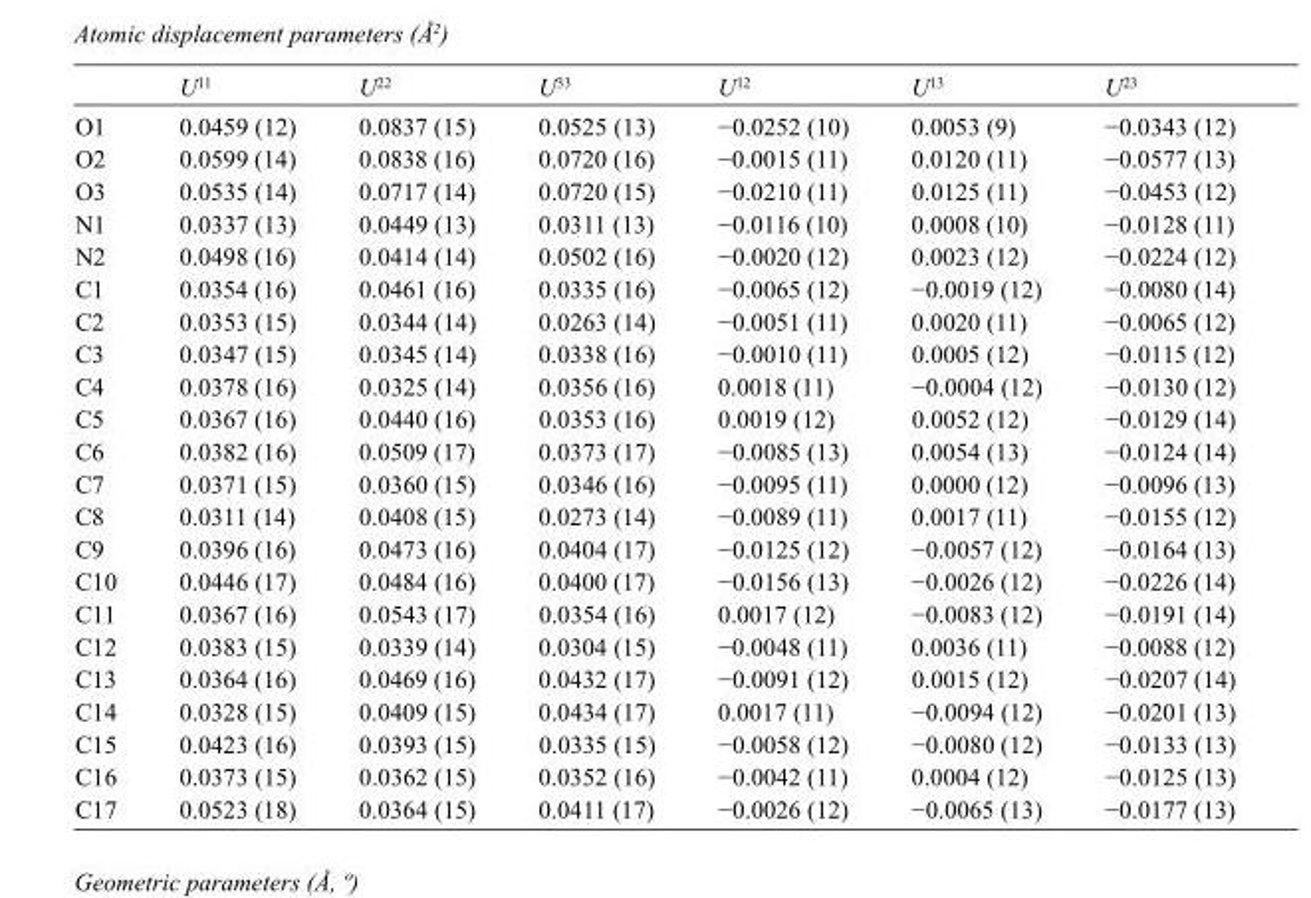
<table><thead><tr><td></td><td>U<sup>11</sup></td><td>U<sup>22</sup></td><td>U<sup>33</sup></td><td>U<sup>12</sup></td><td>U<sup>13</sup></td><td>U<sup>23</sup></td></tr></thead><tbody><tr><td>O1</td><td>0.0459 (12)</td><td>0.0837 (15)</td><td>0.0525 (13)</td><td>−0.0252 (10)</td><td>0.0053 (9)</td><td>−0.0343 (12)</td></tr><tr><td>O2</td><td>0.0599 (14)</td><td>0.0838 (16)</td><td>0.0720 (16)</td><td>−0.0015 (11)</td><td>0.0120 (11)</td><td>−0.0577 (13)</td></tr><tr><td>O3</td><td>0.0535 (14)</td><td>0.0717 (14)</td><td>0.0720 (15)</td><td>−0.0210 (11)</td><td>0.0125 (11)</td><td>−0.0453 (12)</td></tr><tr><td>N1</td><td>0.0337 (13)</td><td>0.0449 (13)</td><td>0.0311 (13)</td><td>−0.0116 (10)</td><td>0.0008 (10)</td><td>−0.0128 (11)</td></tr><tr><td>N2</td><td>0.0498 (16)</td><td>0.0414 (14)</td><td>0.0502 (16)</td><td>−0.0020 (12)</td><td>0.0023 (12)</td><td>−0.0224 (12)</td></tr><tr><td>C1</td><td>0.0354 (16)</td><td>0.0461 (16)</td><td>0.0335 (16)</td><td>−0.0065 (12)</td><td>−0.0019 (12)</td><td>−0.0080 (14)</td></tr><tr><td>C2</td><td>0.0353 (15)</td><td>0.0344 (14)</td><td>0.0263 (14)</td><td>−0.0051 (11)</td><td>0.0020 (11)</td><td>−0.0065 (12)</td></tr><tr><td>C3</td><td>0.0347 (15)</td><td>0.0345 (14)</td><td>0.0338 (16)</td><td>−0.0010 (11)</td><td>0.0005 (12)</td><td>−0.0115 (12)</td></tr><tr><td>C4</td><td>0.0378 (16)</td><td>0.0325 (14)</td><td>0.0356 (16)</td><td>0.0018 (11)</td><td>−0.0004 (12)</td><td>−0.0130 (12)</td></tr><tr><td>C5</td><td>0.0367 (16)</td><td>0.0440 (16)</td><td>0.0353 (16)</td><td>0.0019 (12)</td><td>0.0052 (12)</td><td>−0.0129 (14)</td></tr><tr><td>C6</td><td>0.0382 (16)</td><td>0.0509 (17)</td><td>0.0373 (17)</td><td>−0.0085 (13)</td><td>0.0054 (13)</td><td>−0.0124 (14)</td></tr><tr><td>C7</td><td>0.0371 (15)</td><td>0.0360 (15)</td><td>0.0346 (16)</td><td>−0.0095 (11)</td><td>0.0000 (12)</td><td>−0.0096 (13)</td></tr><tr><td>C8</td><td>0.0311 (14)</td><td>0.0408 (15)</td><td>0.0273 (14)</td><td>−0.0089 (11)</td><td>0.0017 (11)</td><td>−0.0155 (12)</td></tr><tr><td>C9</td><td>0.0396 (16)</td><td>0.0473 (16)</td><td>0.0404 (17)</td><td>−0.0125 (12)</td><td>−0.0057 (12)</td><td>−0.0164 (13)</td></tr><tr><td>C10</td><td>0.0446 (17)</td><td>0.0484 (16)</td><td>0.0400 (17)</td><td>−0.0156 (13)</td><td>−0.0026 (12)</td><td>−0.0226 (14)</td></tr><tr><td>C11</td><td>0.0367 (16)</td><td>0.0543 (17)</td><td>0.0354 (16)</td><td>0.0017 (12)</td><td>−0.0083 (12)</td><td>−0.0191 (14)</td></tr><tr><td>C12</td><td>0.0383 (15)</td><td>0.0339 (14)</td><td>0.0304 (15)</td><td>−0.0048 (11)</td><td>0.0036 (11)</td><td>−0.0088 (12)</td></tr><tr><td>C13</td><td>0.0364 (16)</td><td>0.0469 (16)</td><td>0.0432 (17)</td><td>−0.0091 (12)</td><td>0.0015 (12)</td><td>−0.0207 (14)</td></tr><tr><td>C14</td><td>0.0328 (15)</td><td>0.0409 (15)</td><td>0.0434 (17)</td><td>0.0017 (11)</td><td>−0.0094 (12)</td><td>−0.0201 (13)</td></tr><tr><td>C15</td><td>0.0423 (16)</td><td>0.0393 (15)</td><td>0.0335 (15)</td><td>−0.0058 (12)</td><td>−0.0080 (12)</td><td>−0.0133 (13)</td></tr><tr><td>C16</td><td>0.0373 (15)</td><td>0.0362 (15)</td><td>0.0352 (16)</td><td>−0.0042 (11)</td><td>0.0004 (12)</td><td>−0.0125 (13)</td></tr><tr><td>C17</td><td>0.0523 (18)</td><td>0.0364 (15)</td><td>0.0411 (17)</td><td>−0.0026 (12)</td><td>−0.0065 (13)</td><td>−0.0177 (13)</td></tr></tbody></table>